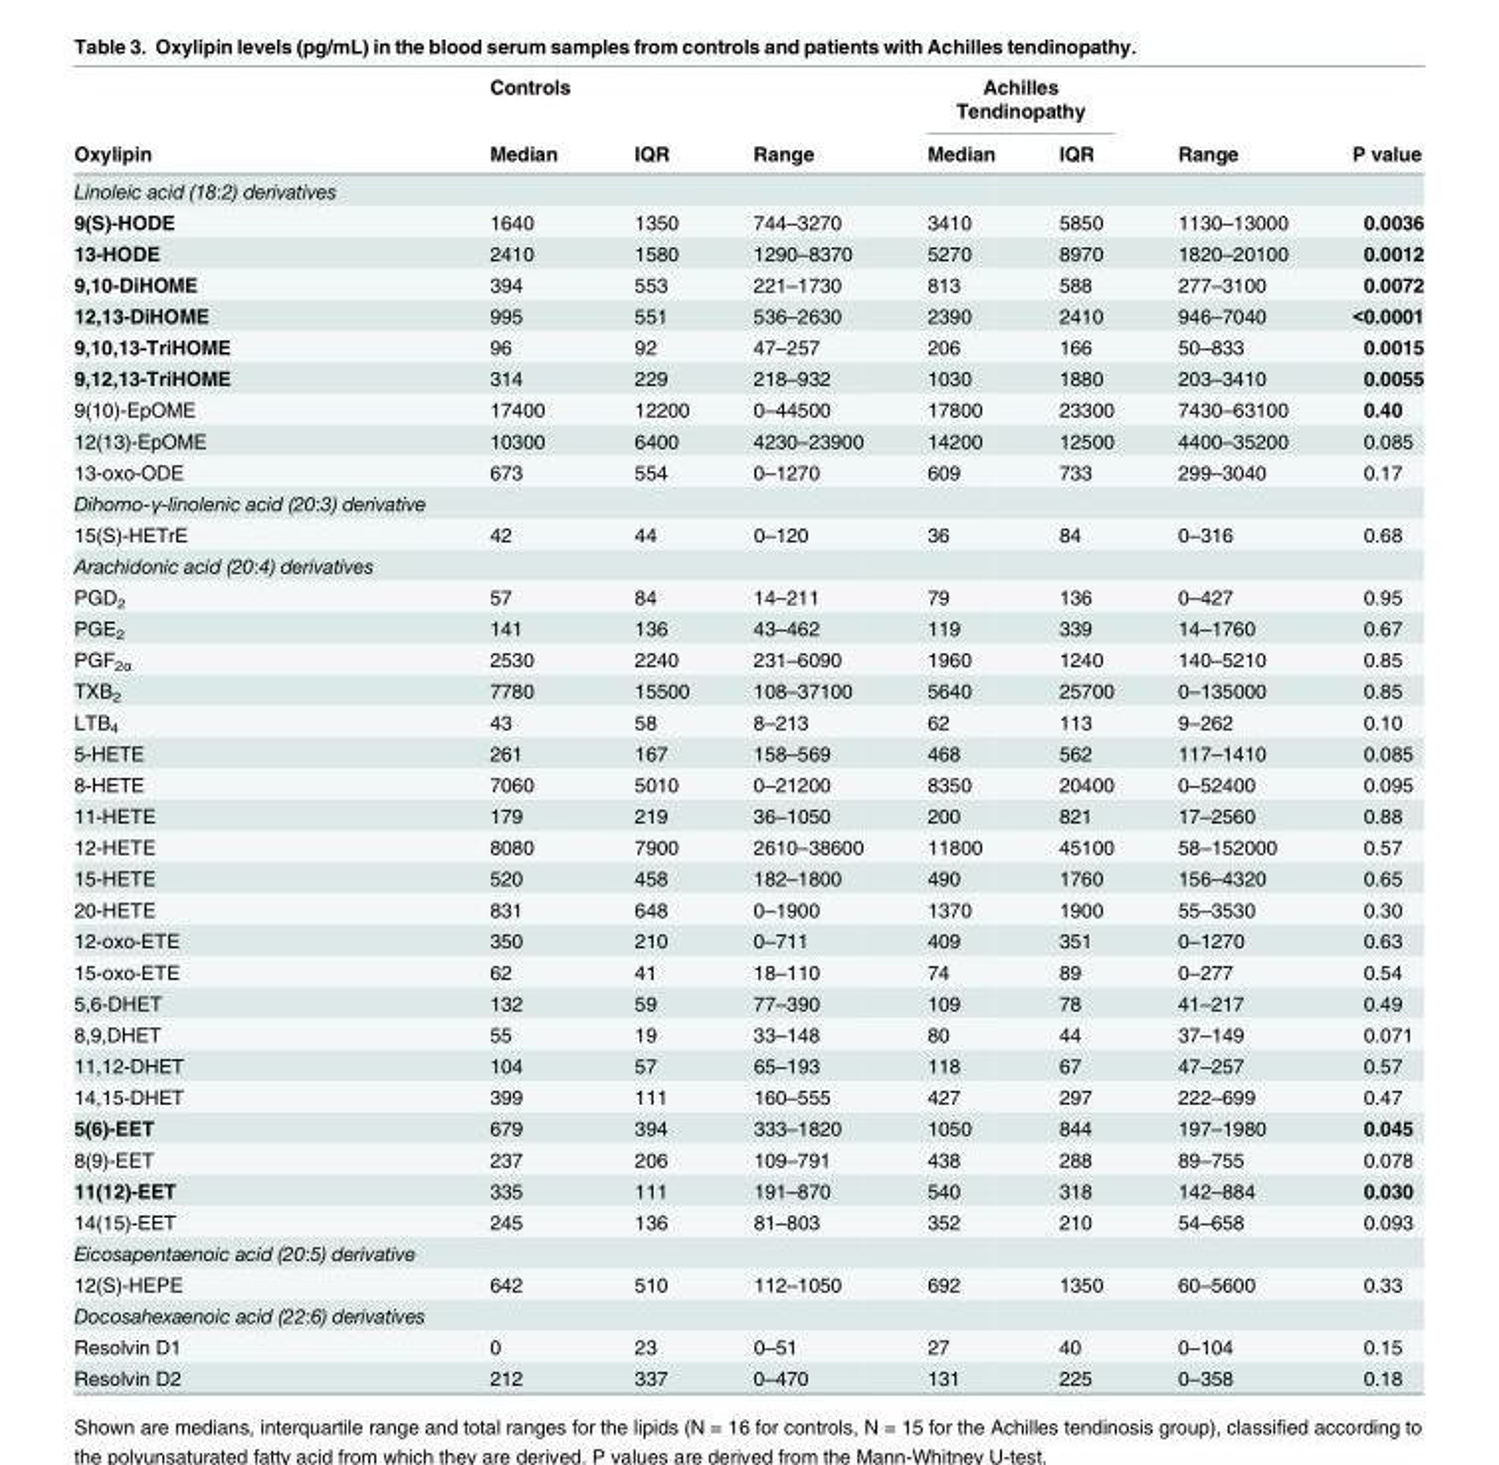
<table><thead><tr><td rowspan="2">Oxylipin</td><td rowspan="2">Controls Median</td><td rowspan="2">IQR</td><td rowspan="2">Range</td><td colspan="2">Achilles Tendinopathy</td><td rowspan="2">Range</td><td rowspan="2">P value</td></tr><tr><td>Median</td><td>IQR</td></tr></thead><tbody><tr><td colspan="8">Linoleic acid (18:2) derivatives</td></tr><tr><td>9(S)-HODE</td><td>1640</td><td>1350</td><td>744–3270</td><td>3410</td><td>5850</td><td>1130–13000</td><td>0.0036</td></tr><tr><td>13-HODE</td><td>2410</td><td>1580</td><td>1290–8370</td><td>5270</td><td>8970</td><td>1820–20100</td><td>0.0012</td></tr><tr><td>9,10-DiHOME</td><td>394</td><td>553</td><td>221–1730</td><td>813</td><td>588</td><td>277–3100</td><td>0.0072</td></tr><tr><td>12,13-DiHOME</td><td>995</td><td>551</td><td>536–2630</td><td>2390</td><td>2410</td><td>946–7040</td><td>&lt;0.0001</td></tr><tr><td>9,10,13-TriHOME</td><td>96</td><td>92</td><td>47–257</td><td>206</td><td>166</td><td>50–833</td><td>0.0015</td></tr><tr><td>9,12,13-TriHOME</td><td>314</td><td>229</td><td>218–932</td><td>1030</td><td>1880</td><td>203–3410</td><td>0.0055</td></tr><tr><td>9(10)-EpOME</td><td>17400</td><td>12200</td><td>0–44500</td><td>17800</td><td>23300</td><td>7430–63100</td><td>0.40</td></tr><tr><td>12(13)-EpOME</td><td>10300</td><td>6400</td><td>4230–23900</td><td>14200</td><td>12500</td><td>4400–35200</td><td>0.085</td></tr><tr><td>13-oxo-ODE</td><td>673</td><td>554</td><td>0–1270</td><td>609</td><td>733</td><td>299–3040</td><td>0.17</td></tr><tr><td colspan="8">Dihomo-γ-linolenic acid (20:3) derivative</td></tr><tr><td>15(S)-HETrE</td><td>42</td><td>44</td><td>0–120</td><td>36</td><td>84</td><td>0–316</td><td>0.68</td></tr><tr><td colspan="8">Arachidonic acid (20:4) derivatives</td></tr><tr><td>PGD<sub>2</sub></td><td>57</td><td>84</td><td>14–211</td><td>79</td><td>136</td><td>0–427</td><td>0.95</td></tr><tr><td>PGE<sub>2</sub></td><td>141</td><td>136</td><td>43–462</td><td>119</td><td>339</td><td>14–1760</td><td>0.67</td></tr><tr><td>PGF<sub>2α</sub></td><td>2530</td><td>2240</td><td>231–6090</td><td>1960</td><td>1240</td><td>140–5210</td><td>0.85</td></tr><tr><td>TXB<sub>2</sub></td><td>7780</td><td>15500</td><td>108–37100</td><td>5640</td><td>25700</td><td>0–135000</td><td>0.85</td></tr><tr><td>LTB<sub>4</sub></td><td>43</td><td>58</td><td>8–213</td><td>62</td><td>113</td><td>9–262</td><td>0.10</td></tr><tr><td>5-HETE</td><td>261</td><td>167</td><td>158–569</td><td>468</td><td>562</td><td>117–1410</td><td>0.085</td></tr><tr><td>8-HETE</td><td>7060</td><td>5010</td><td>0–21200</td><td>8350</td><td>20400</td><td>0–52400</td><td>0.095</td></tr><tr><td>11-HETE</td><td>179</td><td>219</td><td>36–1050</td><td>200</td><td>821</td><td>17–2560</td><td>0.88</td></tr><tr><td>12-HETE</td><td>8080</td><td>7900</td><td>2610–38600</td><td>11800</td><td>45100</td><td>58–152000</td><td>0.57</td></tr><tr><td>15-HETE</td><td>520</td><td>458</td><td>182–1800</td><td>490</td><td>1760</td><td>156–4320</td><td>0.65</td></tr><tr><td>20-HETE</td><td>831</td><td>648</td><td>0–1900</td><td>1370</td><td>1900</td><td>55–3530</td><td>0.30</td></tr><tr><td>12-oxo-ETE</td><td>350</td><td>210</td><td>0–711</td><td>409</td><td>351</td><td>0–1270</td><td>0.63</td></tr><tr><td>15-oxo-ETE</td><td>62</td><td>41</td><td>18–110</td><td>74</td><td>89</td><td>0–277</td><td>0.54</td></tr><tr><td>5,6-DHET</td><td>132</td><td>59</td><td>77–390</td><td>109</td><td>78</td><td>41–217</td><td>0.49</td></tr><tr><td>8,9,DHET</td><td>55</td><td>19</td><td>33–148</td><td>80</td><td>44</td><td>37–149</td><td>0.071</td></tr><tr><td>11,12-DHET</td><td>104</td><td>57</td><td>65–193</td><td>118</td><td>67</td><td>47–257</td><td>0.57</td></tr><tr><td>14,15-DHET</td><td>399</td><td>111</td><td>160–555</td><td>427</td><td>297</td><td>222–699</td><td>0.47</td></tr><tr><td>5(6)-EET</td><td>679</td><td>394</td><td>333–1820</td><td>1050</td><td>844</td><td>197–1980</td><td>0.045</td></tr><tr><td>8(9)-EET</td><td>237</td><td>206</td><td>109–791</td><td>438</td><td>288</td><td>89–755</td><td>0.078</td></tr><tr><td>11(12)-EET</td><td>335</td><td>111</td><td>191–870</td><td>540</td><td>318</td><td>142–884</td><td>0.030</td></tr><tr><td>14(15)-EET</td><td>245</td><td>136</td><td>81–803</td><td>352</td><td>210</td><td>54–658</td><td>0.093</td></tr><tr><td colspan="8">Eicosapentaenoic acid (20:5) derivative</td></tr><tr><td>12(S)-HEPE</td><td>642</td><td>510</td><td>112–1050</td><td>692</td><td>1350</td><td>60–5600</td><td>0.33</td></tr><tr><td colspan="8">Docosahexaenoic acid (22:6) derivatives</td></tr><tr><td>Resolvin D1</td><td>0</td><td>23</td><td>0–51</td><td>27</td><td>40</td><td>0–104</td><td>0.15</td></tr><tr><td>Resolvin D2</td><td>212</td><td>337</td><td>0–470</td><td>131</td><td>225</td><td>0–358</td><td>0.18</td></tr></tbody></table>